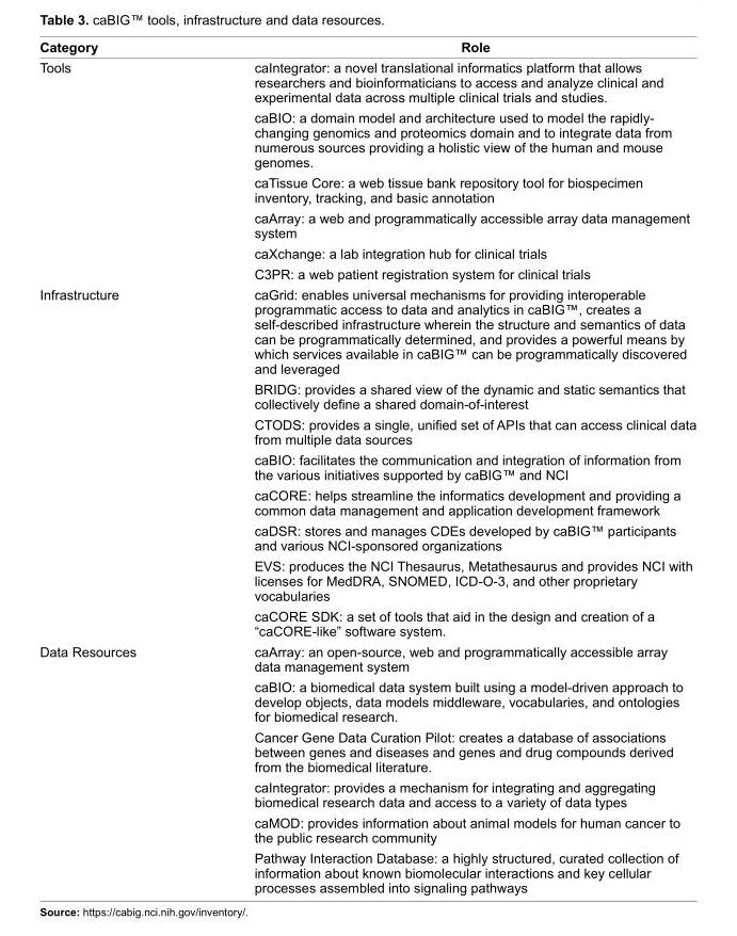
<table><thead><tr><td>Category</td><td>Role</td></tr></thead><tbody><tr><td rowspan="6">Tools</td><td>caIntegrator: a novel translational informatics platform that allows researchers and bioinformaticians to access and analyze clinical and experimental data across multiple clinical trials and studies.</td></tr><tr><td>caBIO: a domain model and architecture used to model the rapidly- changing genomics and proteomics domain and to integrate data from numerous sources providing a holistic view of the human and mouse genomes.</td></tr><tr><td>caTissue Core: a web tissue bank repository tool for biospecimen inventory, tracking, and basic annotation</td></tr><tr><td>caArray: a web and programmatically accessible array data management system</td></tr><tr><td>caXchange: a lab integration hub for clinical trials</td></tr><tr><td>C3PR: a web patient registration system for clinical trials</td></tr><tr><td rowspan="8">Infrastructure</td><td>caGrid: enables universal mechanisms for providing interoperable programmatic access to data and analytics in caBIG™, creates a self-described infrastructure wherein the structure and semantics of data can be programmatically determined, and provides a powerful means by which services available in caBIG™ can be programmatically discovered and leveraged</td></tr><tr><td>BRIDG: provides a shared view of the dynamic and static semantics that collectively defi ne a shared domain-of-interest</td></tr><tr><td>CTODS: provides a single, unifi ed set of APIs that can access clinical data from multiple data sources</td></tr><tr><td>caBIO: facilitates the communication and integration of information from the various initiatives supported by caBIG™ and NCI</td></tr><tr><td>caCORE: helps streamline the informatics development and providing a common data management and application development framework</td></tr><tr><td>caDSR: stores and manages CDEs developed by caBIG™ participants and various NCI-sponsored organizations</td></tr><tr><td>EVS: produces the NCI Thesaurus, Metathesaurus and provides NCI with licenses for MedDRA, SNOMED, ICD-O-3, and other proprietary vocabularies</td></tr><tr><td>caCORE SDK: a set of tools that aid in the design and creation of a “caCORE-like” software system.</td></tr><tr><td rowspan="6">Data Resources</td><td>caArray: an open-source, web and programmatically accessible array data management system</td></tr><tr><td>caBIO: a biomedical data system built using a model-driven approach to develop objects, data models middleware, vocabularies, and ontologies for biomedical research.</td></tr><tr><td>Cancer Gene Data Curation Pilot: creates a database of associations between genes and diseases and genes and drug compounds derived from the biomedical literature.</td></tr><tr><td>caIntegrator: provides a mechanism for integrating and aggregating biomedical research data and access to a variety of data types</td></tr><tr><td>caMOD: provides information about animal models for human cancer to the public research community</td></tr><tr><td>Pathway Interaction Database: a highly structured, curated collection of information about known biomolecular interactions and key cellular processes assembled into signaling pathways</td></tr></tbody></table>